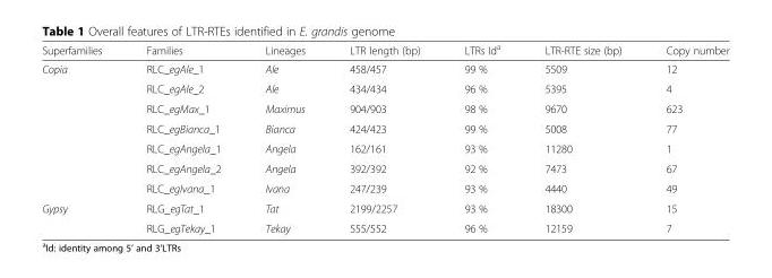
<table><thead><tr><td>Superfamilies</td><td>Families</td><td>Lineages</td><td>LTR length (bp)</td><td>LTRs Id<sup>a</sup></td><td>LTR-RTE size (bp)</td><td>Copy number</td></tr></thead><tbody><tr><td rowspan="7">Copia</td><td>RLC_egAle_1</td><td>Ale</td><td>458/457</td><td>99 %</td><td>5509</td><td>12</td></tr><tr><td>RLC_egAle_2</td><td>Ale</td><td>434/434</td><td>96 %</td><td>5395</td><td>4</td></tr><tr><td>RLC_egMax_1</td><td>Maximus</td><td>904/903</td><td>98 %</td><td>9670</td><td>623</td></tr><tr><td>RLC_egBianca_1</td><td>Bianca</td><td>424/423</td><td>99 %</td><td>5008</td><td>77</td></tr><tr><td>RLC_egAngela_1</td><td>Angela</td><td>162/161</td><td>93 %</td><td>11280</td><td>1</td></tr><tr><td>RLC_egAngela_2</td><td>Angela</td><td>392/392</td><td>92 %</td><td>7473</td><td>67</td></tr><tr><td>RLC_egIvana_1</td><td>Ivana</td><td>247/239</td><td>93 %</td><td>4440</td><td>49</td></tr><tr><td rowspan="2">Gypsy</td><td>RLG_egTat_1</td><td>Tat</td><td>2199/2257</td><td>93 %</td><td>18300</td><td>15</td></tr><tr><td>RLG_egTekay_1</td><td>Tekay</td><td>555/552</td><td>96 %</td><td>12159</td><td>7</td></tr></tbody></table>